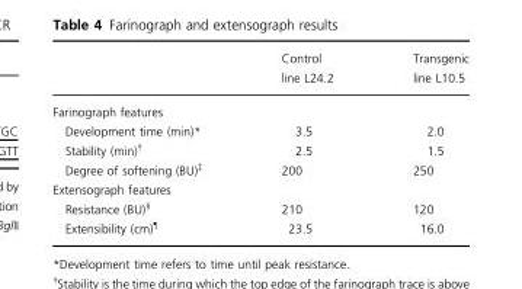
<table><thead><tr><td></td><td>Control line L24.2</td><td>Transgenic line L10.5</td></tr></thead><tbody><tr><td colspan="3">Farinograph features</td></tr><tr><td>Development time (min)*</td><td>3.5</td><td>2.0</td></tr><tr><td>Stability (min)†</td><td>2.5</td><td>1.5</td></tr><tr><td>Degree of softening (BU)‡</td><td>200</td><td>250</td></tr><tr><td colspan="3">Extensograph features</td></tr><tr><td>Resistance (BU)§</td><td>210</td><td>120</td></tr><tr><td>Extensibility (cm)¶</td><td>23.5</td><td>16.0</td></tr></tbody></table>